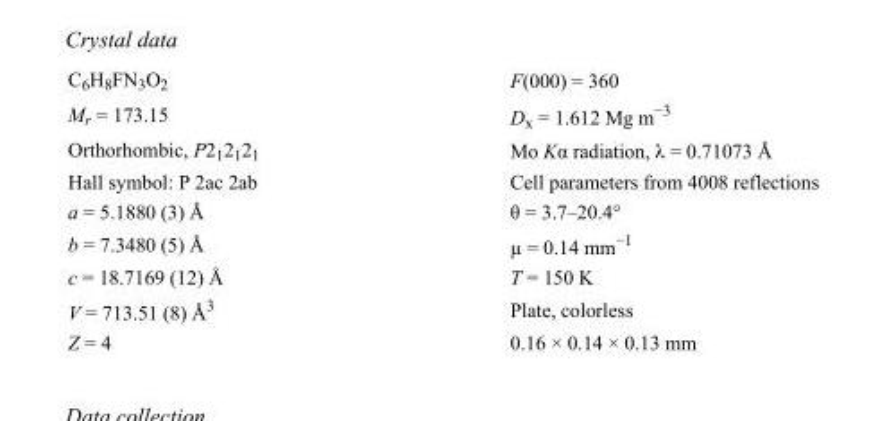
<table><tbody><tr><td>C<sub>6</sub>H<sub>8</sub>FN<sub>3</sub>O<sub>2</sub></td><td>F(000) = 360</td></tr><tr><td>M<sub>r</sub> = 173.15</td><td>D<sub>x</sub> = 1.612 Mg m<sup>−3</sup></td></tr><tr><td>Orthorhombic, P2<sub>1</sub>2<sub>1</sub>2<sub>1</sub></td><td>Mo Kα radiation, λ = 0.71073 Å</td></tr><tr><td>Hall symbol: P 2ac 2ab</td><td>Cell parameters from 4008 reflections</td></tr><tr><td>a = 5.1880 (3) Å</td><td>θ = 3.7–20.4°</td></tr><tr><td>b = 7.3480 (5) Å</td><td>µ = 0.14 mm<sup>−1</sup></td></tr><tr><td>c = 18.7169 (12) Å</td><td>T = 150 K</td></tr><tr><td>V = 713.51 (8) Å<sup>3</sup></td><td>Plate, colorless</td></tr><tr><td>Z = 4</td><td>0.16 × 0.14 × 0.13 mm</td></tr></tbody></table>